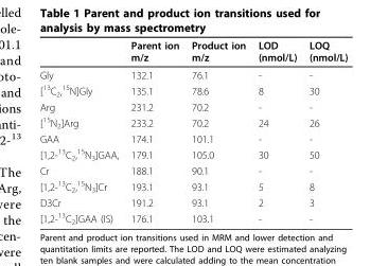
<table><thead><tr><td></td><td>Parent ion m/z</td><td>Product ion m/z</td><td>LOD (nmol/L)</td><td>LOQ (nmol/L)</td></tr></thead><tbody><tr><td>Gly</td><td>132.1</td><td>76.1</td><td>-</td><td>-</td></tr><tr><td>[<sup>13</sup>C<sub>2</sub>,<sup>15</sup>N]Gly</td><td>135.1</td><td>78.6</td><td>8</td><td>30</td></tr><tr><td>Arg</td><td>231.2</td><td>70.2</td><td>-</td><td>-</td></tr><tr><td>[<sup>15</sup>N<sub>2</sub>]Arg</td><td>233.2</td><td>70.2</td><td>24</td><td>26</td></tr><tr><td>GAA</td><td>174.1</td><td>101.1</td><td>-</td><td>-</td></tr><tr><td>[1,2-<sup>13</sup>C<sub>2</sub>,<sup>15</sup>N<sub>3</sub>]GAA,</td><td>179.1</td><td>105.0</td><td>30</td><td>50</td></tr><tr><td>Cr</td><td>188.1</td><td>90.1</td><td>-</td><td>-</td></tr><tr><td>[1,2-<sup>13</sup>C<sub>2</sub>,<sup>15</sup>N<sub>3</sub>]Cr</td><td>193.1</td><td>93.1</td><td>5</td><td>8</td></tr><tr><td>D3Cr</td><td>191.2</td><td>93.1</td><td>2</td><td>3</td></tr><tr><td>[1,2-<sup>13</sup>C<sub>2</sub>]GAA (IS)</td><td>176.1</td><td>103.1</td><td>-</td><td>-</td></tr></tbody></table>